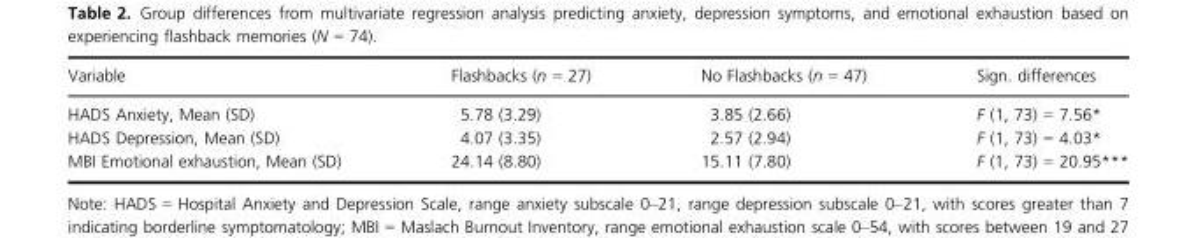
<table><thead><tr><td>Variable</td><td>Flashbacks (n = 27)</td><td>No Flashbacks (n = 47)</td><td>Sign. differences</td></tr></thead><tbody><tr><td>HADS Anxiety, Mean (SD)</td><td>5.78 (3.29)</td><td>3.85 (2.66)</td><td>F (1, 73) = 7.56*</td></tr><tr><td>HADS Depression, Mean (SD)</td><td>4.07 (3.35)</td><td>2.57 (2.94)</td><td>F (1, 73) = 4.03*</td></tr><tr><td>MBI Emotional exhaustion, Mean (SD)</td><td>24.14 (8.80)</td><td>15.11 (7.80)</td><td>F (1, 73) = 20.95***</td></tr></tbody></table>